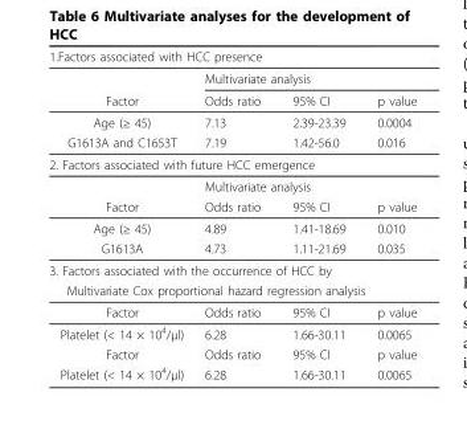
<table><thead><tr><td colspan="4">1.Factors associated with HCC presence</td></tr><tr><td rowspan="2">Factor</td><td colspan="3">Multivariate analysis</td></tr><tr><td>Odds ratio</td><td>95% CI</td><td>p value</td></tr></thead><tbody><tr><td>Age (≥ 45)</td><td>7.13</td><td>2.39-23.39</td><td>0.0004</td></tr><tr><td>G1613A and C1653T</td><td>7.19</td><td>1.42-56.0</td><td>0.016</td></tr><tr><td colspan="4">2. Factors associated with future HCC emergence</td></tr><tr><td></td><td colspan="3">Multivariate analysis</td></tr><tr><td>Factor</td><td>Odds ratio</td><td>95% CI</td><td>p value</td></tr><tr><td>Age (≥ 45)</td><td>4.89</td><td>1.41-18.69</td><td>0.010</td></tr><tr><td>G1613A</td><td>4.73</td><td>1.11-21.69</td><td>0.035</td></tr><tr><td colspan="4">3. Factors associated with the occurrence of HCC by</td></tr><tr><td colspan="4">Multivariate Cox proportional hazard regression analysis</td></tr><tr><td>Factor</td><td>Odds ratio</td><td>95% CI</td><td>p value</td></tr><tr><td>Platelet (&lt; 14 × 10<sup>4</sup>/μl)</td><td>6.28</td><td>1.66-30.11</td><td>0.0065</td></tr><tr><td>Factor</td><td>Odds ratio</td><td>95% CI</td><td>p value</td></tr><tr><td>Platelet (&lt; 14 × 10<sup>4</sup>/μl)</td><td>6.28</td><td>1.66-30.11</td><td>0.0065</td></tr></tbody></table>